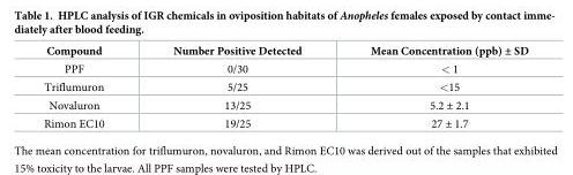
<table><thead><tr><td>Compound</td><td>Number Positive Detected</td><td>Mean Concentration (ppb) ± SD</td></tr></thead><tbody><tr><td>PPF</td><td>0/30</td><td>&lt; 1</td></tr><tr><td>Triflumuron</td><td>5/25</td><td>&lt;15</td></tr><tr><td>Novaluron</td><td>13/25</td><td>5.2 ± 2.1</td></tr><tr><td>Rimon EC10</td><td>19/25</td><td>27 ± 1.7</td></tr></tbody></table>